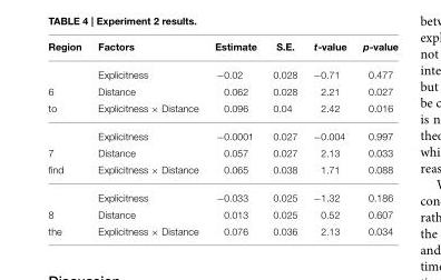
<table><thead><tr><td>Region</td><td>Factors</td><td>Estimate</td><td>S.E.</td><td>t-value</td><td>p-value</td></tr></thead><tbody><tr><td></td><td>Explicitness</td><td>−0.02</td><td>0.028</td><td>−0.71</td><td>0.477</td></tr><tr><td>6</td><td>Distance</td><td>0.062</td><td>0.028</td><td>2.21</td><td>0.027</td></tr><tr><td rowspan="2">to</td><td>Explicitness × Distance</td><td>0.096</td><td>0.04</td><td>2.42</td><td>0.016</td></tr><tr><td>Explicitness</td><td>−0.0001</td><td>0.027</td><td>−0.004</td><td>0.997</td></tr><tr><td>7</td><td>Distance</td><td>0.057</td><td>0.027</td><td>2.13</td><td>0.033</td></tr><tr><td rowspan="2">find</td><td>Explicitness × Distance</td><td>0.065</td><td>0.038</td><td>1.71</td><td>0.088</td></tr><tr><td>Explicitness</td><td>−0.033</td><td>0.025</td><td>−1.32</td><td>0.186</td></tr><tr><td>8</td><td>Distance</td><td>0.013</td><td>0.025</td><td>0.52</td><td>0.607</td></tr><tr><td>the</td><td>Explicitness × Distance</td><td>0.076</td><td>0.036</td><td>2.13</td><td>0.034</td></tr></tbody></table>